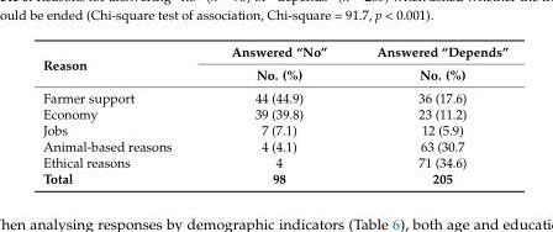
<table><thead><tr><td rowspan="2">Reason</td><td rowspan="2">Answered “No” No. (%)</td><td rowspan="2">Answered “Depends” No. (%)</td></tr><tr></tr></thead><tbody><tr><td>Farmer support</td><td>44 (44.9)</td><td>36 (17.6)</td></tr><tr><td>Economy</td><td>39 (39.8)</td><td>23 (11.2)</td></tr><tr><td>Jobs</td><td>7 (7.1)</td><td>12 (5.9)</td></tr><tr><td>Animal-based reasons</td><td>4 (4.1)</td><td>63 (30.7</td></tr><tr><td>Ethical reasons</td><td>4</td><td>71 (34.6)</td></tr><tr><td>Total</td><td>98</td><td>205</td></tr></tbody></table>